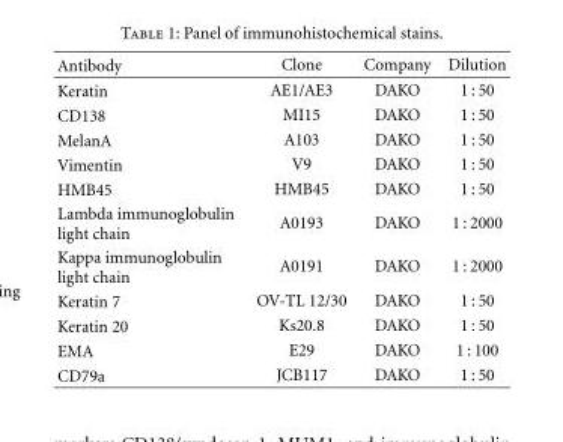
<table><thead><tr><td>Antibody</td><td>Clone</td><td>Company</td><td>Dilution</td></tr></thead><tbody><tr><td>Keratin</td><td>AE1/AE3</td><td>DAKO</td><td>1 : 50</td></tr><tr><td>CD138</td><td>MI15</td><td>DAKO</td><td>1 : 50</td></tr><tr><td>MelanA</td><td>A103</td><td>DAKO</td><td>1 : 50</td></tr><tr><td>Vimentin</td><td>V9</td><td>DAKO</td><td>1 : 50</td></tr><tr><td>HMB45</td><td>HMB45</td><td>DAKO</td><td>1 : 50</td></tr><tr><td>Lambda immunoglobulin light chain</td><td>A0193</td><td>DAKO</td><td>1 : 2000</td></tr><tr><td>Kappa immunoglobulin light chain</td><td>A0191</td><td>DAKO</td><td>1 : 2000</td></tr><tr><td>Keratin 7</td><td>OV-TL 12/30</td><td>DAKO</td><td>1 : 50</td></tr><tr><td>Keratin 20</td><td>Ks20.8</td><td>DAKO</td><td>1 : 50</td></tr><tr><td>EMA</td><td>E29</td><td>DAKO</td><td>1 : 100</td></tr><tr><td>CD79a</td><td>JCB117</td><td>DAKO</td><td>1 : 50</td></tr></tbody></table>